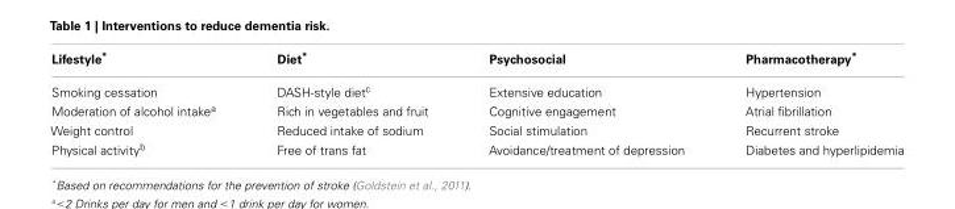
<table><thead><tr><td>Lifestyle*</td><td>Diet*</td><td>Psychosocial</td><td>Pharmacotherapy*</td></tr></thead><tbody><tr><td>Smoking cessation</td><td>DASH-style diet<sup>c</sup></td><td>Extensive education</td><td>Hypertension</td></tr><tr><td>Moderation of alcohol intake<sup>a</sup></td><td>Rich in vegetables and fruit</td><td>Cognitive engagement</td><td>Atrial fibrillation</td></tr><tr><td>Weight control</td><td>Reduced intake of sodium</td><td>Social stimulation</td><td>Recurrent stroke</td></tr><tr><td>Physical activity<sup>b</sup></td><td>Free of trans fat</td><td>Avoidance/treatment of depression</td><td>Diabetes and hyperlipidemia</td></tr></tbody></table>